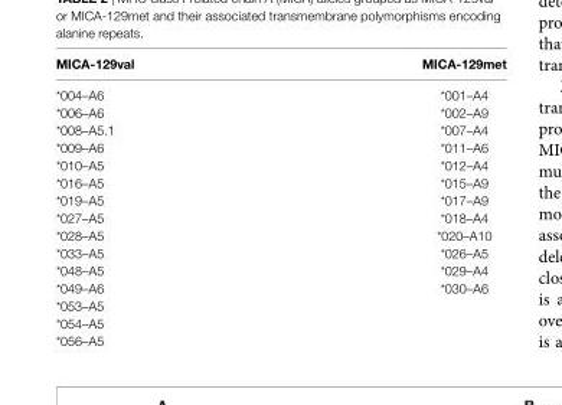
<table><thead><tr><td>Mica-129val</td><td>Mica-129met</td></tr></thead><tbody><tr><td>*004–A6</td><td>*001–A4</td></tr><tr><td>*006–A6</td><td>*002–A9</td></tr><tr><td>*008–A5.1</td><td>*007–A4</td></tr><tr><td>*009–A6</td><td>*011–A6</td></tr><tr><td>*010–A5</td><td>*012–A4</td></tr><tr><td>*016–A5</td><td>*015–A9</td></tr><tr><td>*019–A5</td><td>*017–A9</td></tr><tr><td>*027–A5</td><td>*018–A4</td></tr><tr><td>*028–A5</td><td>*020–A10</td></tr><tr><td>*033–A5</td><td>*026–A5</td></tr><tr><td>*048–A5</td><td>*029–A4</td></tr><tr><td>*049–A6</td><td>*030–A6</td></tr><tr><td colspan="2">*053–A5</td></tr><tr><td colspan="2">*054–A5</td></tr><tr><td>*056–A5</td><td></td></tr></tbody></table>